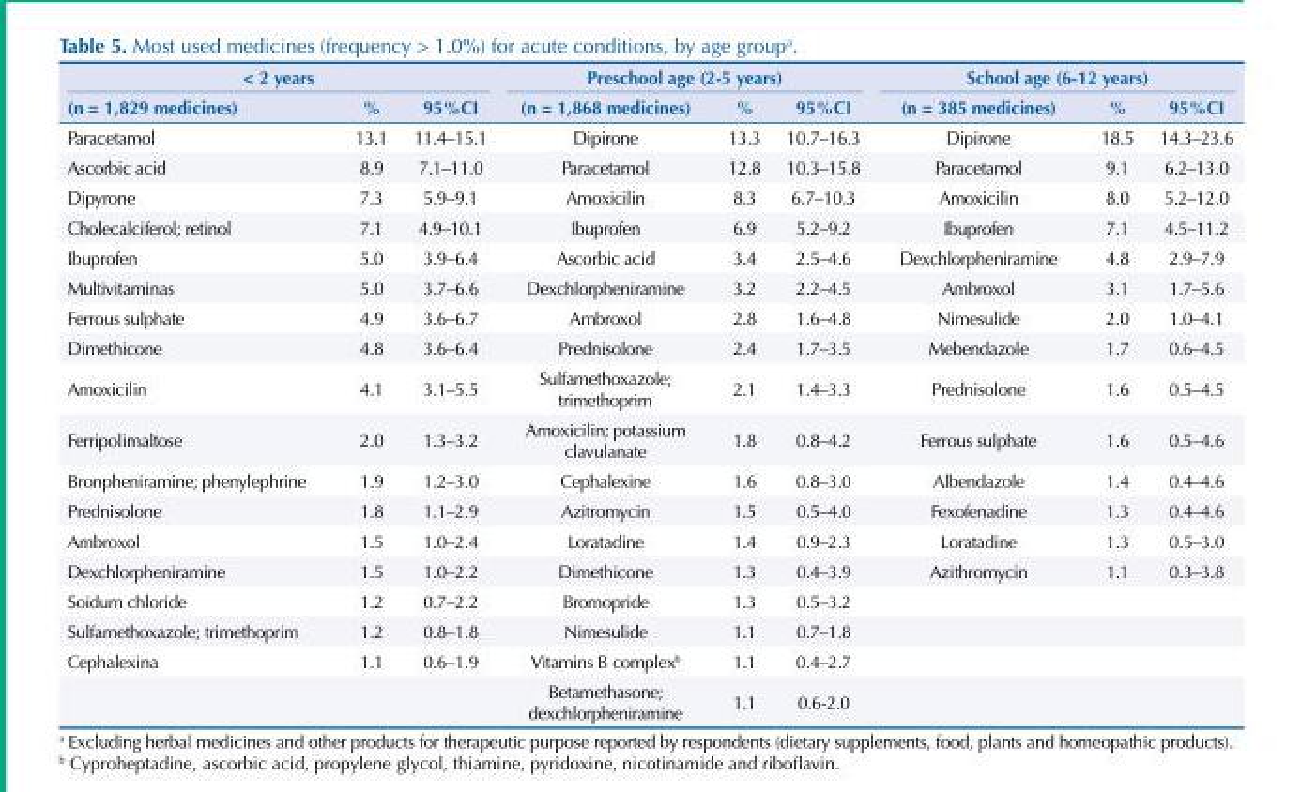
<table><thead><tr><td colspan="3">&lt; 2 years</td><td colspan="3">Preschool age (2-5 years)</td><td colspan="3">School age (6-12 years)</td></tr><tr><td>(n = 1,829 medicines)</td><td>%</td><td>95%CI</td><td>(n = 1,868 medicines)</td><td>%</td><td>95%CI</td><td>(n = 385 medicines)</td><td>%</td><td>95%CI</td></tr></thead><tbody><tr><td>Paracetamol</td><td>13.1</td><td>11.4–15.1</td><td>Dipirone</td><td>13.3</td><td>10.7–16.3</td><td>Dipirone</td><td>18.5</td><td>14.3–23.6</td></tr><tr><td>Ascorbic acid</td><td>8.9</td><td>7.1–11.0</td><td>Paracetamol</td><td>12.8</td><td>10.3–15.8</td><td>Paracetamol</td><td>9.1</td><td>6.2–13.0</td></tr><tr><td>Dipyrone</td><td>7.3</td><td>5.9–9.1</td><td>Amoxicilin</td><td>8.3</td><td>6.7–10.3</td><td>Amoxicilin</td><td>8.0</td><td>5.2–12.0</td></tr><tr><td>Cholecalciferol; retinol</td><td>7.1</td><td>4.9–10.1</td><td>Ibuprofen</td><td>6.9</td><td>5.2–9.2</td><td>Ibuprofen</td><td>7.1</td><td>4.5–11.2</td></tr><tr><td>Ibuprofen</td><td>5.0</td><td>3.9–6.4</td><td>Ascorbic acid</td><td>3.4</td><td>2.5–4.6</td><td>Dexchlorpheniramine</td><td>4.8</td><td>2.9–7.9</td></tr><tr><td>Multivitaminas</td><td>5.0</td><td>3.7–6.6</td><td>Dexchlorpheniramine</td><td>3.2</td><td>2.2–4.5</td><td>Ambroxol</td><td>3.1</td><td>1.7–5.6</td></tr><tr><td>Ferrous sulphate</td><td>4.9</td><td>3.6–6.7</td><td>Ambroxol</td><td>2.8</td><td>1.6–4.8</td><td>Nimesulide</td><td>2.0</td><td>1.0–4.1</td></tr><tr><td>Dimethicone</td><td>4.8</td><td>3.6–6.4</td><td>Prednisolone</td><td>2.4</td><td>1.7–3.5</td><td>Mebendazole</td><td>1.7</td><td>0.6–4.5</td></tr><tr><td>Amoxicilin</td><td>4.1</td><td>3.1–5.5</td><td>Sulfamethoxazole; trimethoprim</td><td>2.1</td><td>1.4–3.3</td><td>Prednisolone</td><td>1.6</td><td>0.5–4.5</td></tr><tr><td>Ferripolimaltose</td><td>2.0</td><td>1.3–3.2</td><td>Amoxicilin; potassium clavulanate</td><td>1.8</td><td>0.8–4.2</td><td>Ferrous sulphate</td><td>1.6</td><td>0.5–4.6</td></tr><tr><td>Bronpheniramine; phenylephrine</td><td>1.9</td><td>1.2–3.0</td><td>Cephalexine</td><td>1.6</td><td>0.8–3.0</td><td>Albendazole</td><td>1.4</td><td>0.4–4.6</td></tr><tr><td>Prednisolone</td><td>1.8</td><td>1.1–2.9</td><td>Azitromycin</td><td>1.5</td><td>0.5–4.0</td><td>Fexofenadine</td><td>1.3</td><td>0.4–4.6</td></tr><tr><td>Ambroxol</td><td>1.5</td><td>1.0–2.4</td><td>Loratadine</td><td>1.4</td><td>0.9–2.3</td><td>Loratadine</td><td>1.3</td><td>0.5–3.0</td></tr><tr><td>Dexchlorpheniramine</td><td>1.5</td><td>1.0–2.2</td><td>Dimethicone</td><td>1.3</td><td>0.4–3.9</td><td>Azithromycin</td><td>1.1</td><td>0.3–3.8</td></tr><tr><td>Soidum chloride</td><td>1.2</td><td>0.7–2.2</td><td>Bromopride</td><td>1.3</td><td>0.5–3.2</td><td></td><td></td><td></td></tr><tr><td>Sulfamethoxazole; trimethoprim</td><td>1.2</td><td>0.8–1.8</td><td>Nimesulide</td><td>1.1</td><td>0.7–1.8</td><td></td><td></td><td></td></tr><tr><td rowspan="2">Cephalexina</td><td>1.1</td><td>0.6–1.9</td><td>Vitamins B complex<sup>b</sup></td><td>1.1</td><td>0.4–2.7</td><td></td><td></td><td></td></tr><tr><td></td><td></td><td>Betamethasone; dexchlorpheniramine</td><td>1.1</td><td>0.6-2.0</td><td></td><td></td><td></td></tr></tbody></table>